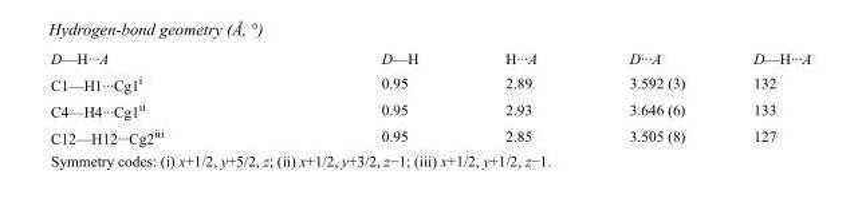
<table><tbody><tr><td>D—H···A</td><td>D—H</td><td>H···A</td><td>D···A</td><td>D—H···A</td></tr><tr><td>C1—H1···Cg1<sup>i</sup></td><td>0.95</td><td>2.89</td><td>3.592 (3)</td><td>132</td></tr><tr><td>C4—H4···Cg1<sup>ii</sup></td><td>0.95</td><td>2.93</td><td>3.646 (6)</td><td>133</td></tr><tr><td>C12—H12···Cg2<sup>iii</sup></td><td>0.95</td><td>2.85</td><td>3.505 (8)</td><td>127</td></tr></tbody></table>